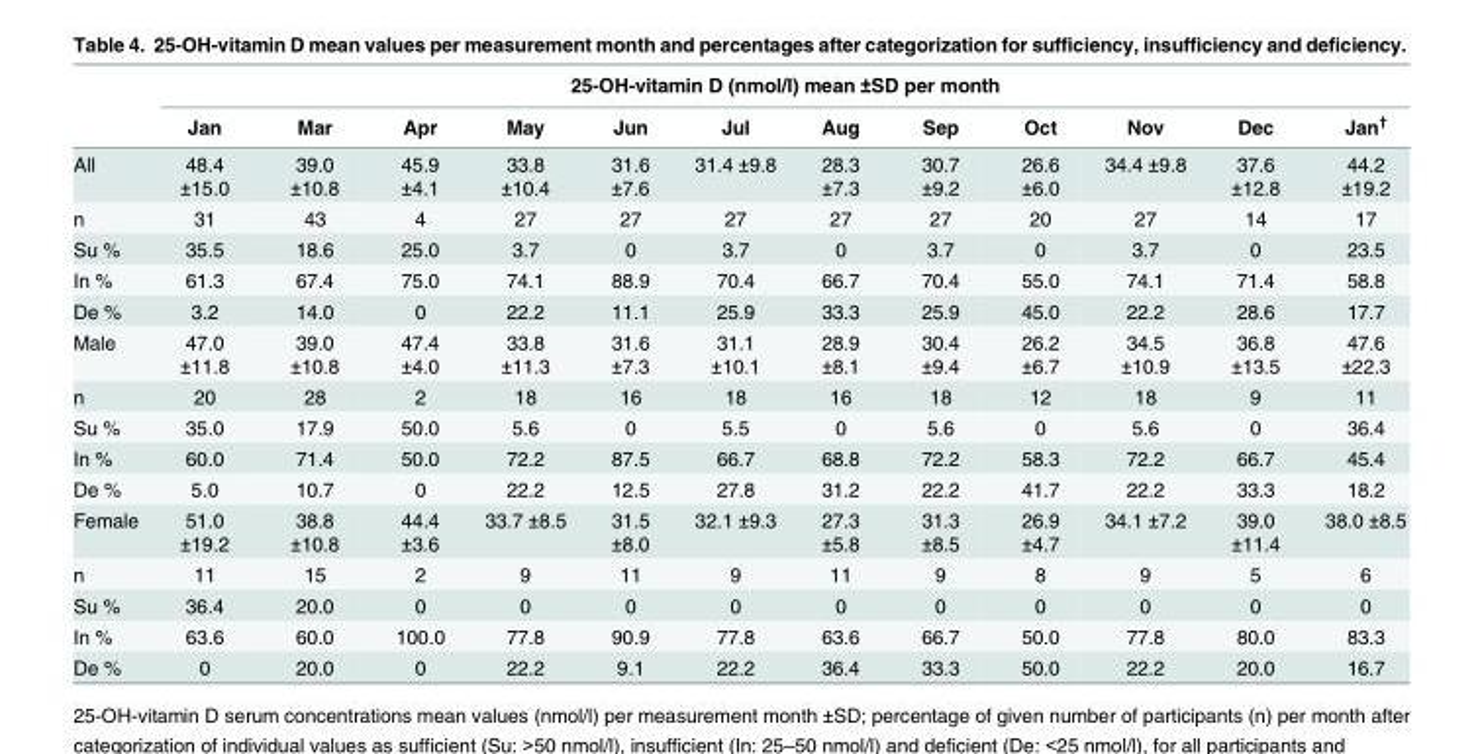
<table><thead><tr><td rowspan="2"></td><td colspan="12">25-OH-vitamin D (nmol/l) mean ±SD per month</td></tr><tr><td>Jan</td><td>Mar</td><td>Apr</td><td>May</td><td>Jun</td><td>Jul</td><td>Aug</td><td>Sep</td><td>Oct</td><td>Nov</td><td>Dec</td><td>Jan<sup>†</sup></td></tr></thead><tbody><tr><td>All</td><td>48.4 ±15.0</td><td>39.0 ±10.8</td><td>45.9 ±4.1</td><td>33.8 ±10.4</td><td>31.6 ±7.6</td><td>31.4 ±9.8</td><td>28.3 ±7.3</td><td>30.7 ±9.2</td><td>26.6 ±6.0</td><td>34.4 ±9.8</td><td>37.6 ±12.8</td><td>44.2 ±19.2</td></tr><tr><td>n</td><td>31</td><td>43</td><td>4</td><td>27</td><td>27</td><td>27</td><td>27</td><td>27</td><td>20</td><td>27</td><td>14</td><td>17</td></tr><tr><td>Su %</td><td>35.5</td><td>18.6</td><td>25.0</td><td>3.7</td><td>0</td><td>3.7</td><td>0</td><td>3.7</td><td>0</td><td>3.7</td><td>0</td><td>23.5</td></tr><tr><td>In %</td><td>61.3</td><td>67.4</td><td>75.0</td><td>74.1</td><td>88.9</td><td>70.4</td><td>66.7</td><td>70.4</td><td>55.0</td><td>74.1</td><td>71.4</td><td>58.8</td></tr><tr><td>De %</td><td>3.2</td><td>14.0</td><td>0</td><td>22.2</td><td>11.1</td><td>25.9</td><td>33.3</td><td>25.9</td><td>45.0</td><td>22.2</td><td>28.6</td><td>17.7</td></tr><tr><td>Male</td><td>47.0 ±11.8</td><td>39.0 ±10.8</td><td>47.4 ±4.0</td><td>33.8 ±11.3</td><td>31.6 ±7.3</td><td>31.1 ±10.1</td><td>28.9 ±8.1</td><td>30.4 ±9.4</td><td>26.2 ±6.7</td><td>34.5 ±10.9</td><td>36.8 ±13.5</td><td>47.6 ±22.3</td></tr><tr><td>n</td><td>20</td><td>28</td><td>2</td><td>18</td><td>16</td><td>18</td><td>16</td><td>18</td><td>12</td><td>18</td><td>9</td><td>11</td></tr><tr><td>Su %</td><td>35.0</td><td>17.9</td><td>50.0</td><td>5.6</td><td>0</td><td>5.5</td><td>0</td><td>5.6</td><td>0</td><td>5.6</td><td>0</td><td>36.4</td></tr><tr><td>In %</td><td>60.0</td><td>71.4</td><td>50.0</td><td>72.2</td><td>87.5</td><td>66.7</td><td>68.8</td><td>72.2</td><td>58.3</td><td>72.2</td><td>66.7</td><td>45.4</td></tr><tr><td>De %</td><td>5.0</td><td>10.7</td><td>0</td><td>22.2</td><td>12.5</td><td>27.8</td><td>31.2</td><td>22.2</td><td>41.7</td><td>22.2</td><td>33.3</td><td>18.2</td></tr><tr><td>Female</td><td>51.0 ±19.2</td><td>38.8 ±10.8</td><td>44.4 ±3.6</td><td>33.7 ±8.5</td><td>31.5 ±8.0</td><td>32.1 ±9.3</td><td>27.3 ±5.8</td><td>31.3 ±8.5</td><td>26.9 ±4.7</td><td>34.1 ±7.2</td><td>39.0 ±11.4</td><td>38.0 ±8.5</td></tr><tr><td>n</td><td>11</td><td>15</td><td>2</td><td>9</td><td>11</td><td>9</td><td>11</td><td>9</td><td>8</td><td>9</td><td>5</td><td>6</td></tr><tr><td>Su %</td><td>36.4</td><td>20.0</td><td>0</td><td>0</td><td>0</td><td>0</td><td>0</td><td>0</td><td>0</td><td>0</td><td>0</td><td>0</td></tr><tr><td>In %</td><td>63.6</td><td>60.0</td><td>100.0</td><td>77.8</td><td>90.9</td><td>77.8</td><td>63.6</td><td>66.7</td><td>50.0</td><td>77.8</td><td>80.0</td><td>83.3</td></tr><tr><td>De %</td><td>0</td><td>20.0</td><td>0</td><td>22.2</td><td>9.1</td><td>22.2</td><td>36.4</td><td>33.3</td><td>50.0</td><td>22.2</td><td>20.0</td><td>16.7</td></tr></tbody></table>